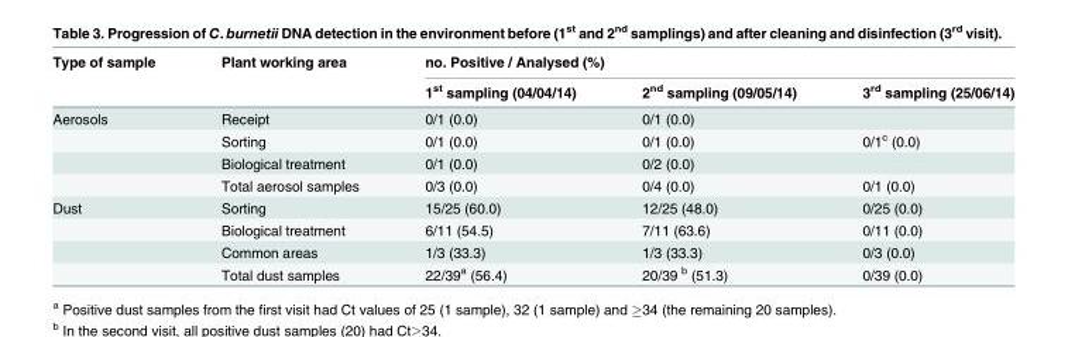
<table><thead><tr><td rowspan="2">Type of sample</td><td rowspan="2">Plant working area</td><td colspan="3">no. Positive / Analysed (%)</td></tr><tr><td>1<sup>st</sup> sampling (04/04/14)</td><td>2<sup>nd</sup> sampling (09/05/14)</td><td>3<sup>rd</sup> sampling (25/06/14)</td></tr></thead><tbody><tr><td rowspan="4">Aerosols</td><td>Receipt</td><td>0/1 (0.0)</td><td>0/1 (0.0)</td><td></td></tr><tr><td>Sorting</td><td>0/1 (0.0)</td><td>0/1 (0.0)</td><td>0/1<sup>c</sup> (0.0)</td></tr><tr><td>Biological treatment</td><td>0/1 (0.0)</td><td>0/2 (0.0)</td><td></td></tr><tr><td>Total aerosol samples</td><td>0/3 (0.0)</td><td>0/4 (0.0)</td><td>0/1 (0.0)</td></tr><tr><td rowspan="4">Dust</td><td>Sorting</td><td>15/25 (60.0)</td><td>12/25 (48.0)</td><td>0/25 (0.0)</td></tr><tr><td>Biological treatment</td><td>6/11 (54.5)</td><td>7/11 (63.6)</td><td>0/11 (0.0)</td></tr><tr><td>Common areas</td><td>1/3 (33.3)</td><td>1/3 (33.3)</td><td>0/3 (0.0)</td></tr><tr><td>Total dust samples</td><td>22/39<sup>a</sup> (56.4)</td><td>20/39 <sup>b</sup> (51.3)</td><td>0/39 (0.0)</td></tr></tbody></table>